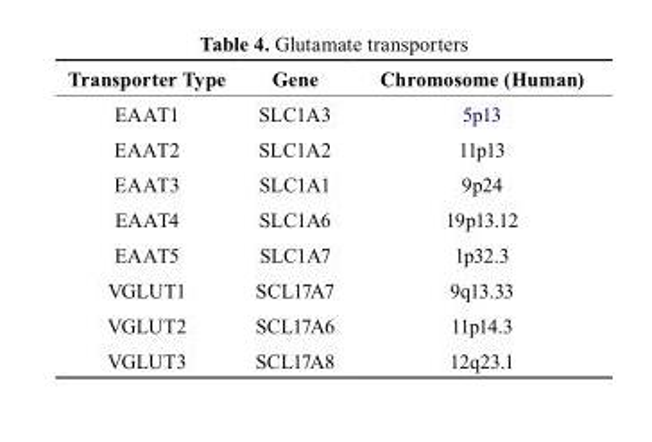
<table><thead><tr><td>transporter type</td><td>Gene</td><td>chromosome (Human)</td></tr></thead><tbody><tr><td>EAAT1</td><td>SLC1A3</td><td>5p13</td></tr><tr><td>EAAT2</td><td>SLC1A2</td><td>11p13</td></tr><tr><td>EAAT3</td><td>SLC1A1</td><td>9p24</td></tr><tr><td>EAAT4</td><td>SLC1A6</td><td>19p13.12</td></tr><tr><td>EAAT5</td><td>SLC1A7</td><td>1p32.3</td></tr><tr><td>VGLUT1</td><td>SCL17A7</td><td>9q13.33</td></tr><tr><td>VGLUT2</td><td>SCL17A6</td><td>11p14.3</td></tr><tr><td>VGLUT3</td><td>SCL17A8</td><td>12q23.1</td></tr></tbody></table>